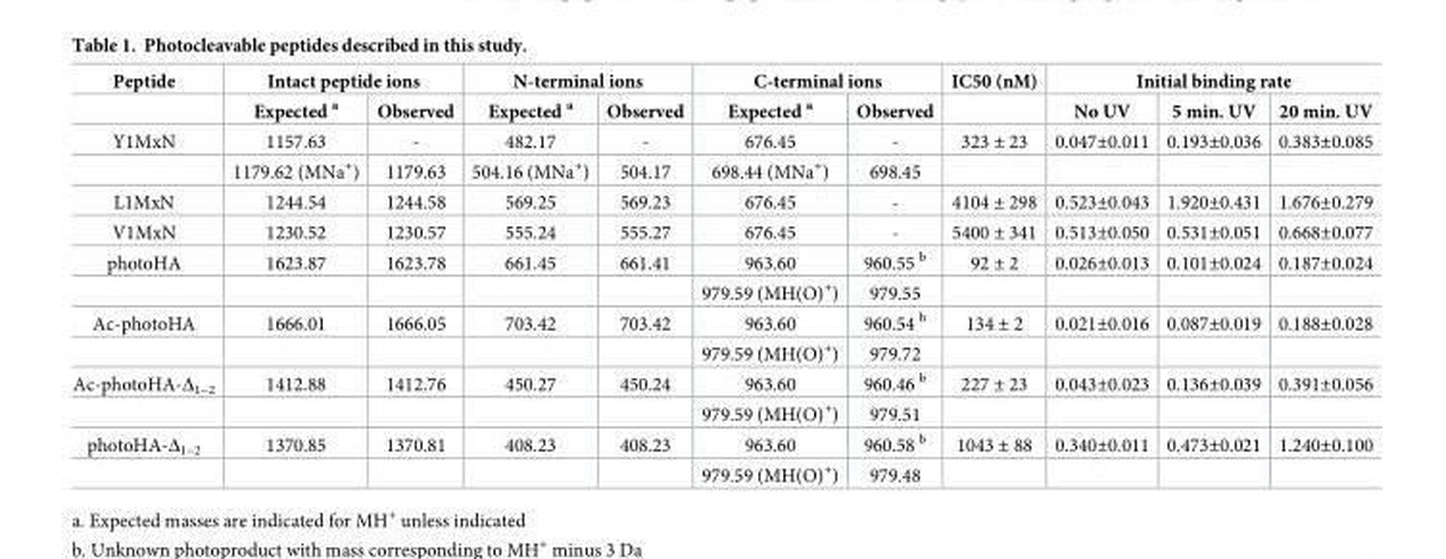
<table><thead><tr><td rowspan="2">Peptide</td><td colspan="2">Intact peptide ions</td><td colspan="2">N-terminal ions</td><td colspan="2">C-terminal ions</td><td rowspan="2">IC50 (nM)</td><td colspan="3">Initial binding rate</td></tr><tr><td>Expected <sup>a</sup></td><td>Observed</td><td>Expected <sup>a</sup></td><td>Observed</td><td>Expected <sup>a</sup></td><td>Observed</td><td>No UV</td><td>5 min. UV</td><td>20 min. UV</td></tr></thead><tbody><tr><td rowspan="2">Y1MxN</td><td>1157.63</td><td>-</td><td>482.17</td><td>-</td><td>676.45</td><td>-</td><td>323 ± 23</td><td>0.047±0.011</td><td>0.193±0.036</td><td>0.383±0.085</td></tr><tr><td>1179.62 (MNa<sup>+</sup>)</td><td>1179.63</td><td>504.16 (MNa<sup>+</sup>)</td><td>504.17</td><td>698.44 (MNa<sup>+</sup>)</td><td>698.45</td><td></td><td></td><td></td><td></td></tr><tr><td>L1MxN</td><td>1244.54</td><td>1244.58</td><td>569.25</td><td>569.23</td><td>676.45</td><td>-</td><td>4104 ± 298</td><td>0.523±0.043</td><td>1.920±0.431</td><td>1.676±0.279</td></tr><tr><td>V1MxN</td><td>1230.52</td><td>1230.57</td><td>555.24</td><td>555.27</td><td>676.45</td><td>-</td><td>5400 ± 341</td><td>0.513±0.050</td><td>0.531±0.051</td><td>0.668±0.077</td></tr><tr><td rowspan="2">photoHA</td><td>1623.87</td><td>1623.78</td><td>661.45</td><td>661.41</td><td>963.60</td><td>960.55 <sup>b</sup></td><td>92 ± 2</td><td>0.026±0.013</td><td>0.101±0.024</td><td>0.187±0.024</td></tr><tr><td></td><td></td><td></td><td></td><td>979.59 (MH(O)<sup>+</sup>)</td><td>979.55</td><td></td><td></td><td></td><td></td></tr><tr><td rowspan="2">Ac-photoHA</td><td>1666.01</td><td>1666.05</td><td>703.42</td><td>703.42</td><td>963.60</td><td>960.54 <sup>b</sup></td><td>134 ± 2</td><td>0.021±0.016</td><td>0.087±0.019</td><td>0.188±0.028</td></tr><tr><td></td><td></td><td></td><td></td><td>979.59 (MH(O)<sup>+</sup>)</td><td>979.72</td><td></td><td></td><td></td><td></td></tr><tr><td rowspan="2">Ac-photoHA-Δ<sub>1–2</sub></td><td>1412.88</td><td>1412.76</td><td>450.27</td><td>450.24</td><td>963.60</td><td>960.46 <sup>b</sup></td><td>227 ± 23</td><td>0.043±0.023</td><td>0.136±0.039</td><td>0.391±0.056</td></tr><tr><td></td><td></td><td></td><td></td><td>979.59 (MH(O)<sup>+</sup>)</td><td>979.51</td><td></td><td></td><td></td><td></td></tr><tr><td rowspan="2">photoHA-Δ<sub>1–2</sub></td><td>1370.85</td><td>1370.81</td><td>408.23</td><td>408.23</td><td>963.60</td><td>960.58 <sup>b</sup></td><td>1043 ± 88</td><td>0.340±0.011</td><td>0.473±0.021</td><td>1.240±0.100</td></tr><tr><td></td><td></td><td></td><td></td><td>979.59 (MH(O)<sup>+</sup>)</td><td>979.48</td><td></td><td></td><td></td><td></td></tr></tbody></table>